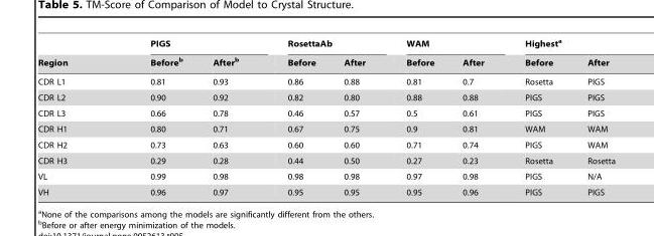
<table><thead><tr><td rowspan="2">Region</td><td colspan="2">PIGS</td><td colspan="2">RosettaAb</td><td colspan="2">WAM</td><td colspan="2">Highest<sup>a</sup></td></tr><tr><td>Before<sup>b</sup></td><td>After<sup>b</sup></td><td>Before</td><td>After</td><td>Before</td><td>After</td><td>Before</td><td>After</td></tr></thead><tbody><tr><td>CDR L1</td><td>0.81</td><td>0.93</td><td>0.86</td><td>0.88</td><td>0.81</td><td>0.7</td><td>Rosetta</td><td>PIGS</td></tr><tr><td>CDR L2</td><td>0.90</td><td>0.92</td><td>0.82</td><td>0.80</td><td>0.88</td><td>0.88</td><td>PIGS</td><td>PIGS</td></tr><tr><td>CDR L3</td><td>0.66</td><td>0.78</td><td>0.46</td><td>0.57</td><td>0.5</td><td>0.61</td><td>PIGS</td><td>PIGS</td></tr><tr><td>CDR H1</td><td>0.80</td><td>0.71</td><td>0.67</td><td>0.75</td><td>0.9</td><td>0.81</td><td>WAM</td><td>WAM</td></tr><tr><td>CDR H2</td><td>0.73</td><td>0.63</td><td>0.60</td><td>0.60</td><td>0.71</td><td>0.74</td><td>PIGS</td><td>WAM</td></tr><tr><td>CDR H3</td><td>0.29</td><td>0.28</td><td>0.44</td><td>0.50</td><td>0.27</td><td>0.23</td><td>Rosetta</td><td>Rosetta</td></tr><tr><td>VL</td><td>0.99</td><td>0.98</td><td>0.98</td><td>0.98</td><td>0.97</td><td>0.98</td><td>PIGS</td><td>N/A</td></tr><tr><td>VH</td><td>0.96</td><td>0.97</td><td>0.95</td><td>0.95</td><td>0.95</td><td>0.96</td><td>PIGS</td><td>PIGS</td></tr></tbody></table>